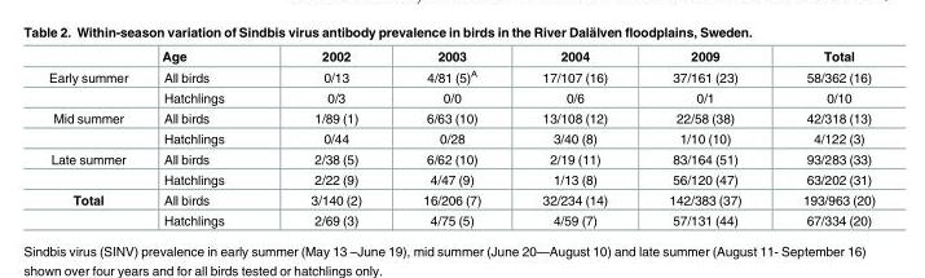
<table><thead><tr><td></td><td>Age</td><td>2002</td><td>2003</td><td>2004</td><td>2009</td><td>Total</td></tr></thead><tbody><tr><td rowspan="2">Early summer</td><td>All birds</td><td>0/13</td><td>4/81 (5)<sup>A</sup></td><td>17/107 (16)</td><td>37/161 (23)</td><td>58/362 (16)</td></tr><tr><td>Hatchlings</td><td>0/3</td><td>0/0</td><td>0/6</td><td>0/1</td><td>0/10</td></tr><tr><td rowspan="2">Mid summer</td><td>All birds</td><td>1/89 (1)</td><td>6/63 (10)</td><td>13/108 (12)</td><td>22/58 (38)</td><td>42/318 (13)</td></tr><tr><td>Hatchlings</td><td>0/44</td><td>0/28</td><td>3/40 (8)</td><td>1/10 (10)</td><td>4/122 (3)</td></tr><tr><td rowspan="2">Late summer</td><td>All birds</td><td>2/38 (5)</td><td>6/62 (10)</td><td>2/19 (11)</td><td>83/164 (51)</td><td>93/283 (33)</td></tr><tr><td>Hatchlings</td><td>2/22 (9)</td><td>4/47 (9)</td><td>1/13 (8)</td><td>56/120 (47)</td><td>63/202 (31)</td></tr><tr><td rowspan="2">Total</td><td>All birds</td><td>3/140 (2)</td><td>16/206 (7)</td><td>32/234 (14)</td><td>142/383 (37)</td><td>193/963 (20)</td></tr><tr><td>Hatchlings</td><td>2/69 (3)</td><td>4/75 (5)</td><td>4/59 (7)</td><td>57/131 (44)</td><td>67/334 (20)</td></tr></tbody></table>